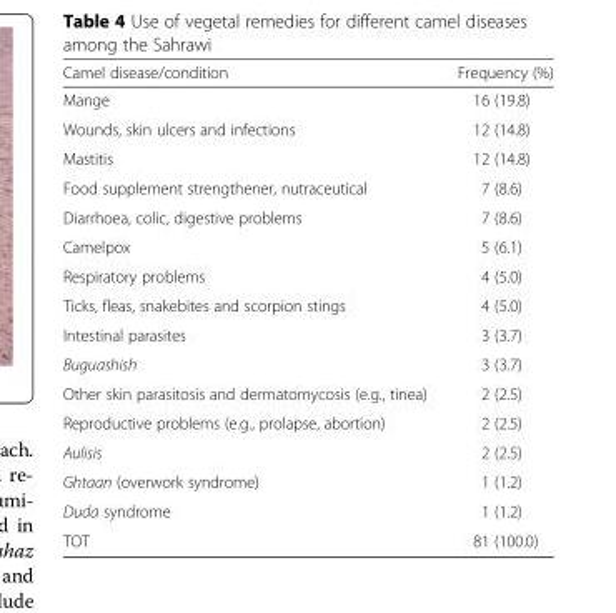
<table><thead><tr><td>Camel disease/condition</td><td>Frequency (%)</td></tr></thead><tbody><tr><td>Mange</td><td>16 (19.8)</td></tr><tr><td>Wounds, skin ulcers and infections</td><td>12 (14.8)</td></tr><tr><td>Mastitis</td><td>12 (14.8)</td></tr><tr><td>Food supplement strengthener, nutraceutical</td><td>7 (8.6)</td></tr><tr><td>Diarrhoea, colic, digestive problems</td><td>7 (8.6)</td></tr><tr><td>Camelpox</td><td>5 (6.1)</td></tr><tr><td>Respiratory problems</td><td>4 (5.0)</td></tr><tr><td>Ticks, fleas, snakebites and scorpion stings</td><td>4 (5.0)</td></tr><tr><td>Intestinal parasites</td><td>3 (3.7)</td></tr><tr><td>Buguashish</td><td>3 (3.7)</td></tr><tr><td>Other skin parasitosis and dermatomycosis (e.g., tinea)</td><td>2 (2.5)</td></tr><tr><td>Reproductive problems (e.g., prolapse, abortion)</td><td>2 (2.5)</td></tr><tr><td>Aulisis</td><td>2 (2.5)</td></tr><tr><td>Ghtaan (overwork syndrome)</td><td>1 (1.2)</td></tr><tr><td>Duda syndrome</td><td>1 (1.2)</td></tr><tr><td>TOT</td><td>81 (100.0)</td></tr></tbody></table>